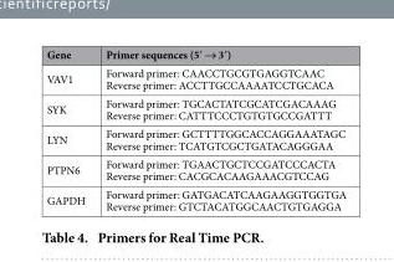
<table><thead><tr><td>Gene</td><td>Primer sequences (5′ → 3′)</td></tr></thead><tbody><tr><td>VAV1</td><td>Forward primer: CAACCTGCGTGAGGTCAAC Reverse primer: ACCTTGCCAAAATCCTGCACA</td></tr><tr><td>SYK</td><td>Forward primer: TGCACTATCGCATCGACAAAG Reverse primer: CATTTCCCTGTGTGCCGATTT</td></tr><tr><td>LYN</td><td>Forward primer: GCTTTTGGCACCAGGAAATAGC Reverse primer: TCATGTCGCTGATACAGGGAA</td></tr><tr><td>PTPN6</td><td>Forward primer: TGAACTGCTCCGATCCCACTA Reverse primer: CACGCACAAGAAACGTCCAG</td></tr><tr><td>GAPDH</td><td>Forward primer: GATGACATCAAGAAGGTGGTGA Reverse primer: GTCTACATGGCAACTGTGAGGA</td></tr></tbody></table>